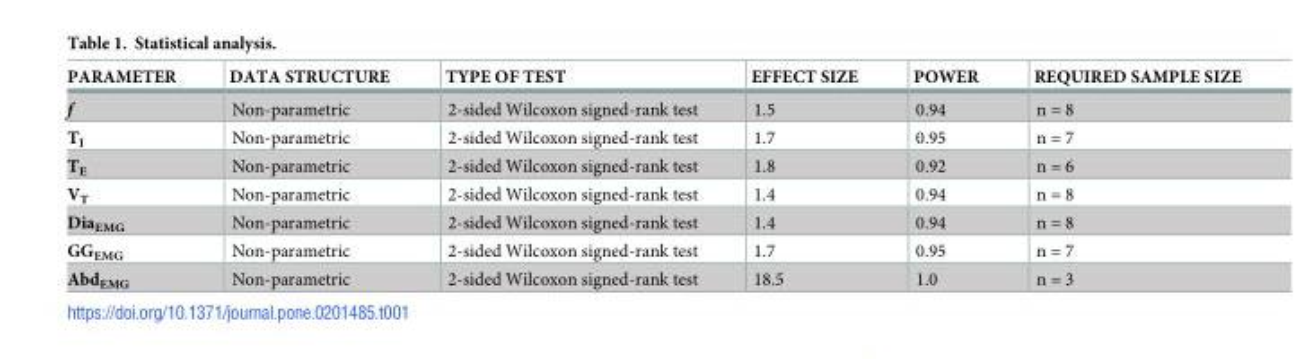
<table><thead><tr><td>PARAMETER</td><td>DATA STRUCTURE</td><td>TYPE OF TEST</td><td>EFFECT SIZE</td><td>POWER</td><td>REQUIRED SAMPLE SIZE</td></tr></thead><tbody><tr><td>f</td><td>Non-parametric</td><td>2-sided Wilcoxon signed-rank test</td><td>1.5</td><td>0.94</td><td>n = 8</td></tr><tr><td>T<sub>I</sub></td><td>Non-parametric</td><td>2-sided Wilcoxon signed-rank test</td><td>1.7</td><td>0.95</td><td>n = 7</td></tr><tr><td>T<sub>E</sub></td><td>Non-parametric</td><td>2-sided Wilcoxon signed-rank test</td><td>1.8</td><td>0.92</td><td>n = 6</td></tr><tr><td>V<sub>T</sub></td><td>Non-parametric</td><td>2-sided Wilcoxon signed-rank test</td><td>1.4</td><td>0.94</td><td>n = 8</td></tr><tr><td>Dia<sub>EMG</sub></td><td>Non-parametric</td><td>2-sided Wilcoxon signed-rank test</td><td>1.4</td><td>0.94</td><td>n = 8</td></tr><tr><td>GG<sub>EMG</sub></td><td>Non-parametric</td><td>2-sided Wilcoxon signed-rank test</td><td>1.7</td><td>0.95</td><td>n = 7</td></tr><tr><td>Abd<sub>EMG</sub></td><td>Non-parametric</td><td>2-sided Wilcoxon signed-rank test</td><td>18.5</td><td>1.0</td><td>n = 3</td></tr></tbody></table>